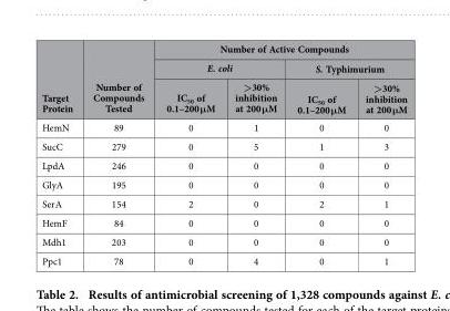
<table><thead><tr><td rowspan="3">Target Protein</td><td rowspan="3">Number of Compounds Tested</td><td colspan="4">Number of Active Compounds</td></tr><tr><td colspan="2">E. coli</td><td colspan="2">S. Typhimurium</td></tr><tr><td>IC<sub>50</sub> of 0.1–200 μM</td><td>&gt;30% inhibition at 200 μM</td><td>IC<sub>50</sub> of 0.1–200 μM</td><td>&gt;30% inhibition at 200 μM</td></tr></thead><tbody><tr><td>HemN</td><td>89</td><td>0</td><td>1</td><td>0</td><td>0</td></tr><tr><td>SucC</td><td>279</td><td>0</td><td>5</td><td>1</td><td>3</td></tr><tr><td>LpdA</td><td>246</td><td>0</td><td>0</td><td>0</td><td>0</td></tr><tr><td>GlyA</td><td>195</td><td>0</td><td>0</td><td>0</td><td>0</td></tr><tr><td>SerA</td><td>154</td><td>2</td><td>0</td><td>2</td><td>1</td></tr><tr><td>HemF</td><td>84</td><td>0</td><td>0</td><td>0</td><td>0</td></tr><tr><td>Mdh1</td><td>203</td><td>0</td><td>0</td><td>0</td><td>0</td></tr><tr><td>Ppc1</td><td>78</td><td>0</td><td>4</td><td>0</td><td>1</td></tr></tbody></table>